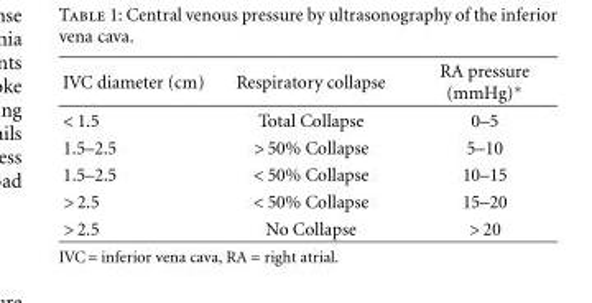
<table><thead><tr><td>IVC diameter (cm)</td><td>Respiratory collapse</td><td>RA pressure (mmHg)∗</td></tr></thead><tbody><tr><td>&lt; 1.5</td><td>Total Collapse</td><td>0–5</td></tr><tr><td>1.5–2.5</td><td>&gt; 50% Collapse</td><td>5–10</td></tr><tr><td>1.5–2.5</td><td>&lt; 50% Collapse</td><td>10–15</td></tr><tr><td>&gt; 2.5</td><td>&lt; 50% Collapse</td><td>15–20</td></tr><tr><td>&gt; 2.5</td><td>No Collapse</td><td>&gt; 20</td></tr></tbody></table>